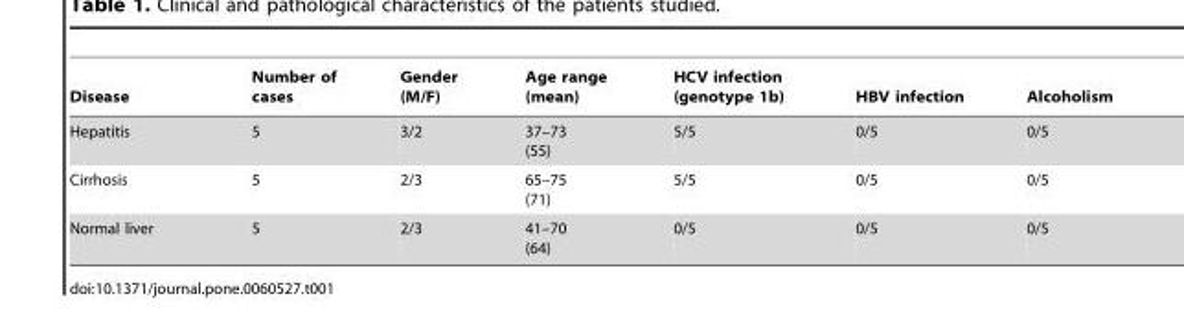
<table><thead><tr><td>Disease</td><td>Number of cases</td><td>Gender (M/F)</td><td>Age range (mean)</td><td>HCV infection (genotype 1b)</td><td>HBV infection</td><td>Alcoholism</td></tr></thead><tbody><tr><td>Hepatitis</td><td>5</td><td>3/2</td><td>37–73 (55)</td><td>5/5</td><td>0/5</td><td>0/5</td></tr><tr><td>Cirrhosis</td><td>5</td><td>2/3</td><td>65–75 (71)</td><td>5/5</td><td>0/5</td><td>0/5</td></tr><tr><td>Normal liver</td><td>5</td><td>2/3</td><td>41–70 (64)</td><td>0/5</td><td>0/5</td><td>0/5</td></tr></tbody></table>